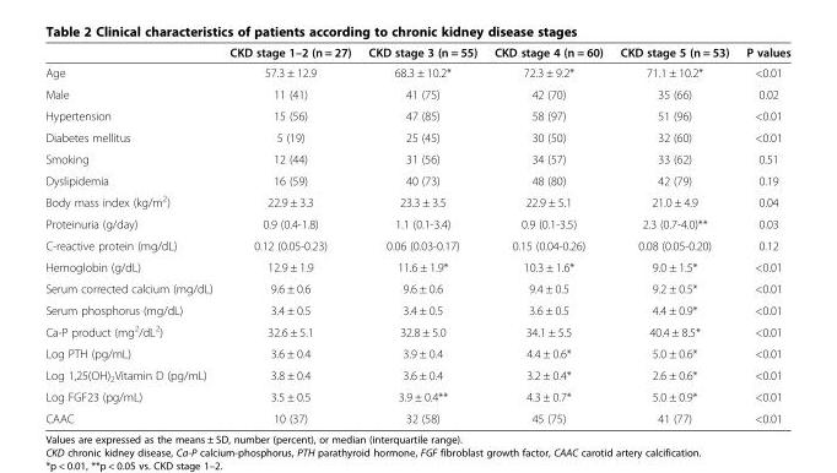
<table><thead><tr><td></td><td>CKD stage 1–2 (n = 27)</td><td>CKD stage 3 (n = 55)</td><td>CKD stage 4 (n = 60)</td><td>CKD stage 5 (n = 53)</td><td>P values</td></tr></thead><tbody><tr><td>Age</td><td>57.3 ± 12.9</td><td>68.3 ± 10.2*</td><td>72.3 ± 9.2*</td><td>71.1 ± 10.2*</td><td>&lt;0.01</td></tr><tr><td>Male</td><td>11 (41)</td><td>41 (75)</td><td>42 (70)</td><td>35 (66)</td><td>0.02</td></tr><tr><td>Hypertension</td><td>15 (56)</td><td>47 (85)</td><td>58 (97)</td><td>51 (96)</td><td>&lt;0.01</td></tr><tr><td>Diabetes mellitus</td><td>5 (19)</td><td>25 (45)</td><td>30 (50)</td><td>32 (60)</td><td>&lt;0.01</td></tr><tr><td>Smoking</td><td>12 (44)</td><td>31 (56)</td><td>34 (57)</td><td>33 (62)</td><td>0.51</td></tr><tr><td>Dyslipidemia</td><td>16 (59)</td><td>40 (73)</td><td>48 (80)</td><td>42 (79)</td><td>0.19</td></tr><tr><td>Body mass index (kg/m<sup>2</sup>)</td><td>22.9 ± 3.3</td><td>23.3 ± 3.5</td><td>22.9 ± 5.1</td><td>21.0 ± 4.9</td><td>0.04</td></tr><tr><td>Proteinuria (g/day)</td><td>0.9 (0.4-1.8)</td><td>1.1 (0.1-3.4)</td><td>0.9 (0.1-3.5)</td><td>2.3 (0.7-4.0)**</td><td>0.03</td></tr><tr><td>C-reactive protein (mg/dL)</td><td>0.12 (0.05-0.23)</td><td>0.06 (0.03-0.17)</td><td>0.15 (0.04-0.26)</td><td>0.08 (0.05-0.20)</td><td>0.12</td></tr><tr><td>Hemoglobin (g/dL)</td><td>12.9 ± 1.9</td><td>11.6 ± 1.9*</td><td>10.3 ± 1.6*</td><td>9.0 ± 1.5*</td><td>&lt;0.01</td></tr><tr><td>Serum corrected calcium (mg/dL)</td><td>9.6 ± 0.6</td><td>9.6 ± 0.6</td><td>9.4 ± 0.5</td><td>9.2 ± 0.5*</td><td>&lt;0.01</td></tr><tr><td>Serum phosphorus (mg/dL)</td><td>3.4 ± 0.5</td><td>3.4 ± 0.5</td><td>3.6 ± 0.5</td><td>4.4 ± 0.9*</td><td>&lt;0.01</td></tr><tr><td>Ca-P product (mg<sup>2</sup>/dL<sup>2</sup>)</td><td>32.6 ± 5.1</td><td>32.8 ± 5.0</td><td>34.1 ± 5.5</td><td>40.4 ± 8.5*</td><td>&lt;0.01</td></tr><tr><td>Log PTH (pg/mL)</td><td>3.6 ± 0.4</td><td>3.9 ± 0.4</td><td>4.4 ± 0.6*</td><td>5.0 ± 0.6*</td><td>&lt;0.01</td></tr><tr><td>Log 1,25(OH)<sub>2</sub>Vitamin D (pg/mL)</td><td>3.8 ± 0.4</td><td>3.6 ± 0.4</td><td>3.2 ± 0.4*</td><td>2.6 ± 0.6*</td><td>&lt;0.01</td></tr><tr><td>Log FGF23 (pg/mL)</td><td>3.5 ± 0.5</td><td>3.9 ± 0.4**</td><td>4.3 ± 0.7*</td><td>5.0 ± 0.9*</td><td>&lt;0.01</td></tr><tr><td>CAAC</td><td>10 (37)</td><td>32 (58)</td><td>45 (75)</td><td>41 (77)</td><td>&lt;0.01</td></tr></tbody></table>